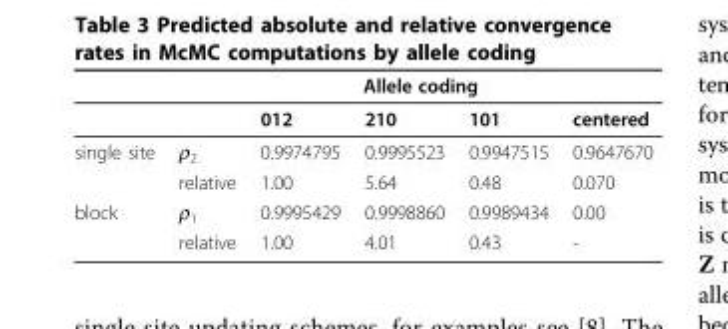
<table><thead><tr><td rowspan="2"></td><td colspan="5">Allele coding</td></tr><tr><td></td><td>012</td><td>210</td><td>101</td><td>centered</td></tr></thead><tbody><tr><td rowspan="2">single site</td><td>ρ<sub>2</sub></td><td>0.9974795</td><td>0.9995523</td><td>0.9947515</td><td>0.9647670</td></tr><tr><td>relative</td><td>1.00</td><td>5.64</td><td>0.48</td><td>0.070</td></tr><tr><td rowspan="2">block</td><td>ρ<sub>1</sub></td><td>0.9995429</td><td>0.9998860</td><td>0.9989434</td><td>0.00</td></tr><tr><td>relative</td><td>1.00</td><td>4.01</td><td>0.43</td><td>-</td></tr></tbody></table>